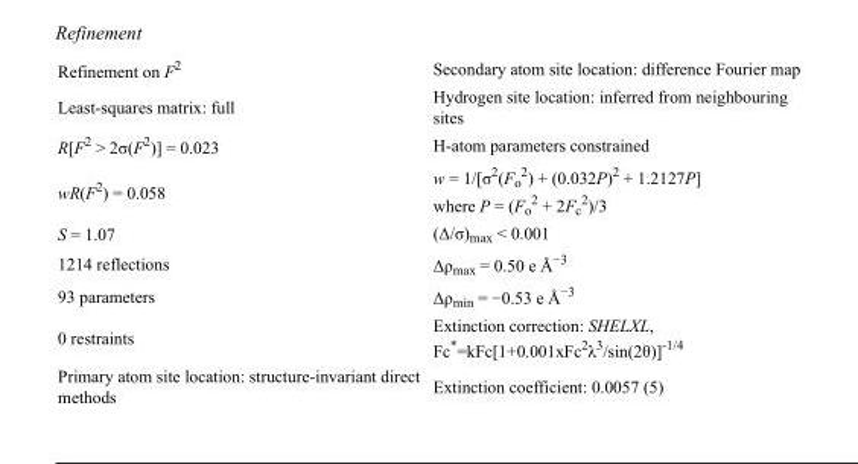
<table><tbody><tr><td>Refinement on F<sup>2</sup></td><td>Secondary atom site location: difference Fourier map</td></tr><tr><td>Least-squares matrix: full</td><td>Hydrogen site location: inferred from neighbouring sites</td></tr><tr><td>R[F<sup>2</sup> &gt; 2σ(F<sup>2</sup>)] = 0.023</td><td>H-atom parameters constrained</td></tr><tr><td>wR(F<sup>2</sup>) = 0.058</td><td>w = 1/[σ<sup>2</sup>(F<sub>o</sub> <sup>2</sup>) + (0.032P)<sup>2</sup> + 1.2127P] where P = (F<sub>o</sub> <sup>2</sup> + 2F<sub>c</sub> <sup>2</sup>)/3</td></tr><tr><td>S = 1.07</td><td>(Δ/σ)<sub>max</sub> &lt; 0.001</td></tr><tr><td>1214 reflections</td><td>Δρ<sub>max</sub> = 0.50 e Å<sup>−3</sup></td></tr><tr><td>93 parameters</td><td>Δρ<sub>min</sub> = −0.53 e Å<sup>−3</sup></td></tr><tr><td>0 restraints</td><td>Extinction correction: SHELXL, Fc*=kFc[1+0.001xFc<sup>2</sup>λ<sup>3</sup>/sin(2θ)]<sup>-1/4</sup></td></tr><tr><td>Primary atom site location: structure-invariant direct methods</td><td>Extinction coefficient: 0.0057 (5)</td></tr></tbody></table>